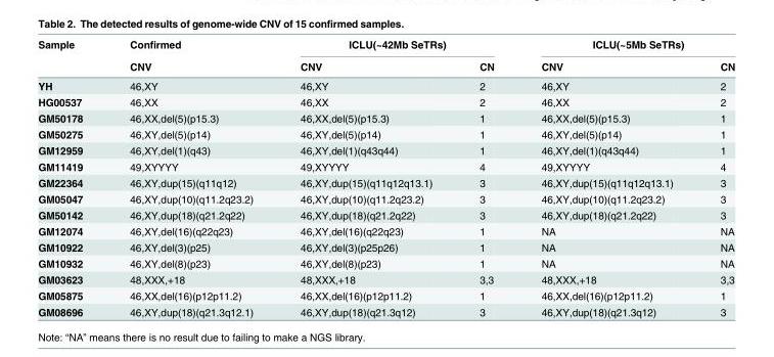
<table><thead><tr><td rowspan="2">Sample</td><td rowspan="2">Confirmed CNV</td><td colspan="2">ICLU(~42Mb SeTRs)</td><td colspan="2">ICLU(~5Mb SeTRs)</td></tr><tr><td>CNV</td><td>CN</td><td>CNV</td><td>CN</td></tr></thead><tbody><tr><td>YH</td><td>46,XY</td><td>46,XY</td><td>2</td><td>46,XY</td><td>2</td></tr><tr><td>HG00537</td><td>46,XX</td><td>46,XX</td><td>2</td><td>46,XX</td><td>2</td></tr><tr><td>GM50178</td><td>46,XX,del(5)(p15.3)</td><td>46,XX,del(5)(p15.3)</td><td>1</td><td>46,XX,del(5)(p15.3)</td><td>1</td></tr><tr><td>GM50275</td><td>46,XY,del(5)(p14)</td><td>46,XY,del(5)(p14)</td><td>1</td><td>46,XY,del(5)(p14)</td><td>1</td></tr><tr><td>GM12959</td><td>46,XY,del(1)(q43)</td><td>46,XY,del(1)(q43q44)</td><td>1</td><td>46,XY,del(1)(q43q44)</td><td>1</td></tr><tr><td>GM11419</td><td>49,XYYYY</td><td>49,XYYYY</td><td>4</td><td>49,XYYYY</td><td>4</td></tr><tr><td>GM22364</td><td>46,XY,dup(15)(q11q12)</td><td>46,XY,dup(15)(q11q12q13.1)</td><td>3</td><td>46,XY,dup(15)(q11q12q13.1)</td><td>3</td></tr><tr><td>GM05047</td><td>46,XY,dup(10)(q11.2q23.2)</td><td>46,XY,dup(10)(q11.2q23.2)</td><td>3</td><td>46,XY,dup(10)(q11.2q23.2)</td><td>3</td></tr><tr><td>GM50142</td><td>46,XY,dup(18)(q21.2q22)</td><td>46,XY,dup(18)(q21.2q22)</td><td>3</td><td>46,XY,dup(18)(q21.2q22)</td><td>3</td></tr><tr><td>GM12074</td><td>46,XY,del(16)(q22q23)</td><td>46,XY,del(16)(q22q23)</td><td>1</td><td>NA</td><td>NA</td></tr><tr><td>GM10922</td><td>46,XY,del(3)(p25)</td><td>46,XY,del(3)(p25p26)</td><td>1</td><td>NA</td><td>NA</td></tr><tr><td>GM10932</td><td>46,XY,del(8)(p23)</td><td>46,XY,del(8)(p23)</td><td>1</td><td>NA</td><td>NA</td></tr><tr><td>GM03623</td><td>48,XXX,+18</td><td>48,XXX,+18</td><td>3,3</td><td>48,XXX,+18</td><td>3,3</td></tr><tr><td>GM05875</td><td>46,XX,del(16)(p12p11.2)</td><td>46,XX,del(16)(p12p11.2)</td><td>1</td><td>46,XX,del(16)(p12p11.2)</td><td>1</td></tr><tr><td>GM08696</td><td>46,XY,dup(18)(q21.3q12.1)</td><td>46,XY,dup(18)(q21.3q12)</td><td>3</td><td>46,XY,dup(18)(q21.3q12)</td><td>3</td></tr></tbody></table>